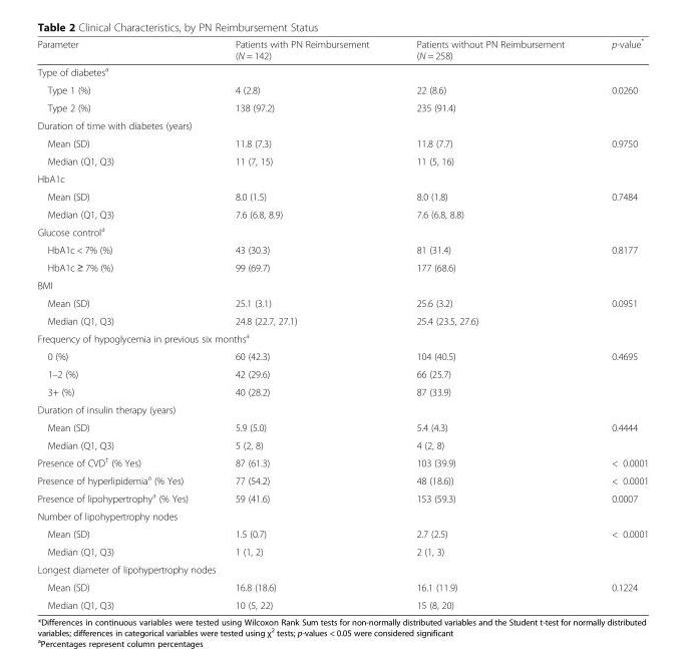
<table><thead><tr><td>Parameter</td><td>Patients with PN Reimbursement (N = 142)</td><td>Patients without PN Reimbursement (N = 258)</td><td>p-value*</td></tr></thead><tbody><tr><td colspan="4">Type of diabetes<sup>a</sup></td></tr><tr><td>Type 1 (%)</td><td>4 (2.8)</td><td>22 (8.6)</td><td rowspan="2">0.0260</td></tr><tr><td>Type 2 (%)</td><td>138 (97.2)</td><td>235 (91.4)</td></tr><tr><td colspan="4">Duration of time with diabetes (years)</td></tr><tr><td>Mean (SD)</td><td>11.8 (7.3)</td><td>11.8 (7.7)</td><td rowspan="2">0.9750</td></tr><tr><td>Median (Q1, Q3)</td><td>11 (7, 15)</td><td>11 (5, 16)</td></tr><tr><td colspan="4">HbA1c</td></tr><tr><td>Mean (SD)</td><td>8.0 (1.5)</td><td>8.0 (1.8)</td><td rowspan="2">0.7484</td></tr><tr><td>Median (Q1, Q3)</td><td>7.6 (6.8, 8.9)</td><td>7.6 (6.8, 8.8)</td></tr><tr><td colspan="4">Glucose control<sup>a</sup></td></tr><tr><td>HbA1c &lt; 7% (%)</td><td>43 (30.3)</td><td>81 (31.4)</td><td rowspan="2">0.8177</td></tr><tr><td>HbA1c ≥ 7% (%)</td><td>99 (69.7)</td><td>177 (68.6)</td></tr><tr><td colspan="4">BMI</td></tr><tr><td>Mean (SD)</td><td>25.1 (3.1)</td><td>25.6 (3.2)</td><td rowspan="2">0.0951</td></tr><tr><td>Median (Q1, Q3)</td><td>24.8 (22.7, 27.1)</td><td>25.4 (23.5, 27.6)</td></tr><tr><td colspan="4">Frequency of hypoglycemia in previous six months<sup>a</sup></td></tr><tr><td>0 (%)</td><td>60 (42.3)</td><td>104 (40.5)</td><td rowspan="3">0.4695</td></tr><tr><td>1–2 (%)</td><td>42 (29.6)</td><td>66 (25.7)</td></tr><tr><td>3+ (%)</td><td>40 (28.2)</td><td>87 (33.9)</td></tr><tr><td colspan="4">Duration of insulin therapy (years)</td></tr><tr><td>Mean (SD)</td><td>5.9 (5.0)</td><td>5.4 (4.3)</td><td rowspan="2">0.4444</td></tr><tr><td>Median (Q1, Q3)</td><td>5 (2, 8)</td><td>4 (2, 8)</td></tr><tr><td>Presence of CVD<sup>†</sup> (% Yes)</td><td>87 (61.3)</td><td>103 (39.9)</td><td>&lt; 0.0001</td></tr><tr><td>Presence of hyperlipidemia<sup>a</sup> (% Yes)</td><td>77 (54.2)</td><td>48 (18.6))</td><td>&lt; 0.0001</td></tr><tr><td>Presence of lipohypertrophy<sup>a</sup> (% Yes)</td><td>59 (41.6)</td><td>153 (59.3)</td><td>0.0007</td></tr><tr><td colspan="4">Number of lipohypertrophy nodes</td></tr><tr><td>Mean (SD)</td><td>1.5 (0.7)</td><td>2.7 (2.5)</td><td rowspan="2">&lt; 0.0001</td></tr><tr><td>Median (Q1, Q3)</td><td>1 (1, 2)</td><td>2 (1, 3)</td></tr><tr><td colspan="4">Longest diameter of lipohypertrophy nodes</td></tr><tr><td>Mean (SD)</td><td>16.8 (18.6)</td><td>16.1 (11.9)</td><td rowspan="2">0.1224</td></tr><tr><td>Median (Q1, Q3)</td><td>10 (5, 22)</td><td>15 (8, 20)</td></tr></tbody></table>